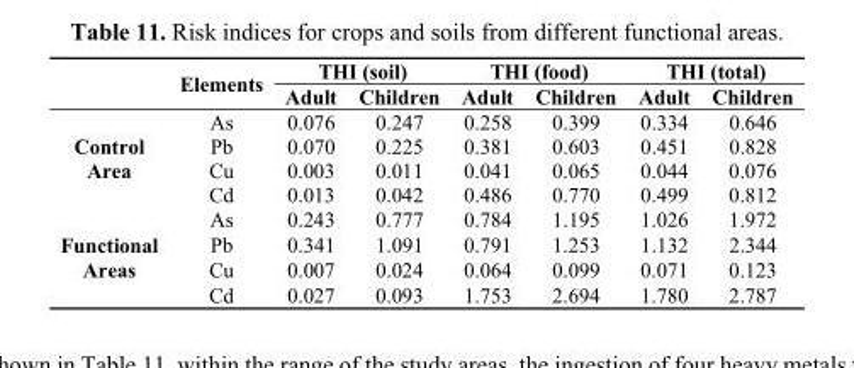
<table><thead><tr><td rowspan="2"></td><td rowspan="2">Elements</td><td colspan="2">THI (soil)</td><td colspan="2">THI (food)</td><td colspan="2">THI (total)</td></tr><tr><td>Adult</td><td>Children</td><td>Adult</td><td>Children</td><td>Adult</td><td>Children</td></tr></thead><tbody><tr><td rowspan="4">Control Area</td><td>As</td><td>0.076</td><td>0.247</td><td>0.258</td><td>0.399</td><td>0.334</td><td>0.646</td></tr><tr><td>Pb</td><td>0.070</td><td>0.225</td><td>0.381</td><td>0.603</td><td>0.451</td><td>0.828</td></tr><tr><td>Cu</td><td>0.003</td><td>0.011</td><td>0.041</td><td>0.065</td><td>0.044</td><td>0.076</td></tr><tr><td>Cd</td><td>0.013</td><td>0.042</td><td>0.486</td><td>0.770</td><td>0.499</td><td>0.812</td></tr><tr><td rowspan="4">Functional Areas</td><td>As</td><td>0.243</td><td>0.777</td><td>0.784</td><td>1.195</td><td>1.026</td><td>1.972</td></tr><tr><td>Pb</td><td>0.341</td><td>1.091</td><td>0.791</td><td>1.253</td><td>1.132</td><td>2.344</td></tr><tr><td>Cu</td><td>0.007</td><td>0.024</td><td>0.064</td><td>0.099</td><td>0.071</td><td>0.123</td></tr><tr><td>Cd</td><td>0.027</td><td>0.093</td><td>1.753</td><td>2.694</td><td>1.780</td><td>2.787</td></tr></tbody></table>